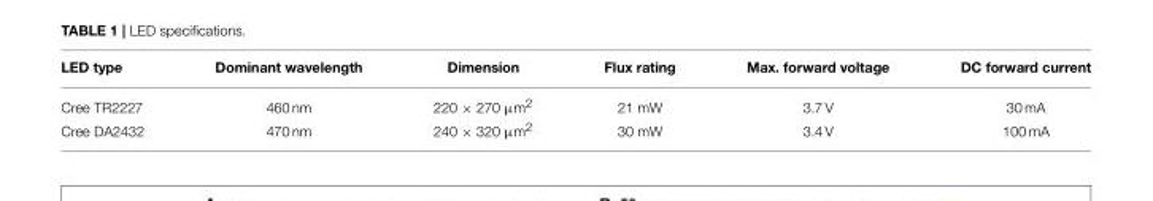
<table><thead><tr><td>LED type</td><td>Dominant wavelength</td><td>Dimension</td><td>Flux rating</td><td>Max. forward voltage</td><td>DC forward current</td></tr></thead><tbody><tr><td>Cree TR2227</td><td>460 nm</td><td>220 × 270 µm<sup>2</sup></td><td>21 mW</td><td>3.7 V</td><td>30 mA</td></tr><tr><td>Cree DA2432</td><td>470 nm</td><td>240 × 320 µm<sup>2</sup></td><td>30 mW</td><td>3.4 V</td><td>100 mA</td></tr></tbody></table>